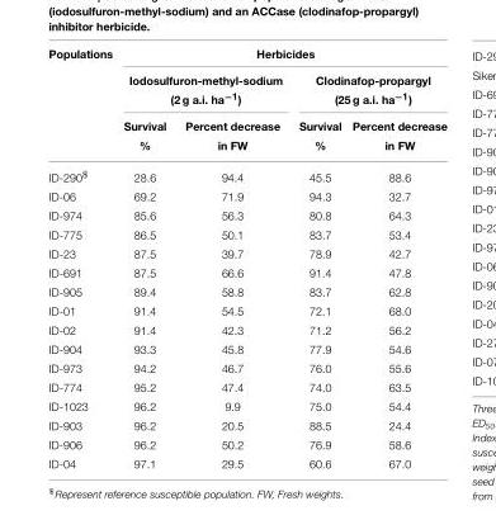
<table><thead><tr><td rowspan="3">Populations</td><td colspan="4">Herbicides</td></tr><tr><td colspan="2">Iodosulfuron-methyl-sodium (2 g a.i. ha<sup>−1</sup>)</td><td colspan="2">Clodinafop-propargyl (25 g a.i. ha<sup>−1</sup>)</td></tr><tr><td>Survival %</td><td>Percent decrease in FW</td><td>Survival %</td><td>Percent decrease in FW</td></tr></thead><tbody><tr><td>ID-290<sup>$</sup></td><td>28.6</td><td>94.4</td><td>45.5</td><td>88.6</td></tr><tr><td>ID-06</td><td>69.2</td><td>71.9</td><td>94.3</td><td>32.7</td></tr><tr><td>ID-974</td><td>85.6</td><td>56.3</td><td>80.8</td><td>64.3</td></tr><tr><td>ID-775</td><td>86.5</td><td>50.1</td><td>83.7</td><td>53.4</td></tr><tr><td>ID-23</td><td>87.5</td><td>39.7</td><td>78.9</td><td>42.7</td></tr><tr><td>ID-691</td><td>87.5</td><td>66.6</td><td>91.4</td><td>47.8</td></tr><tr><td>ID-905</td><td>89.4</td><td>58.8</td><td>83.7</td><td>62.8</td></tr><tr><td>ID-01</td><td>91.4</td><td>54.5</td><td>72.1</td><td>68.0</td></tr><tr><td>ID-02</td><td>91.4</td><td>42.3</td><td>71.2</td><td>56.2</td></tr><tr><td>ID-904</td><td>93.3</td><td>45.8</td><td>77.9</td><td>54.6</td></tr><tr><td>ID-973</td><td>94.2</td><td>46.7</td><td>76.0</td><td>55.6</td></tr><tr><td>ID-774</td><td>95.2</td><td>47.4</td><td>74.0</td><td>63.5</td></tr><tr><td>ID-1023</td><td>96.2</td><td>9.9</td><td>75.0</td><td>54.4</td></tr><tr><td>ID-903</td><td>96.2</td><td>20.5</td><td>88.5</td><td>24.4</td></tr><tr><td>ID-906</td><td>96.2</td><td>50.2</td><td>76.9</td><td>58.6</td></tr><tr><td>ID-04</td><td>97.1</td><td>29.5</td><td>60.6</td><td>67.0</td></tr></tbody></table>